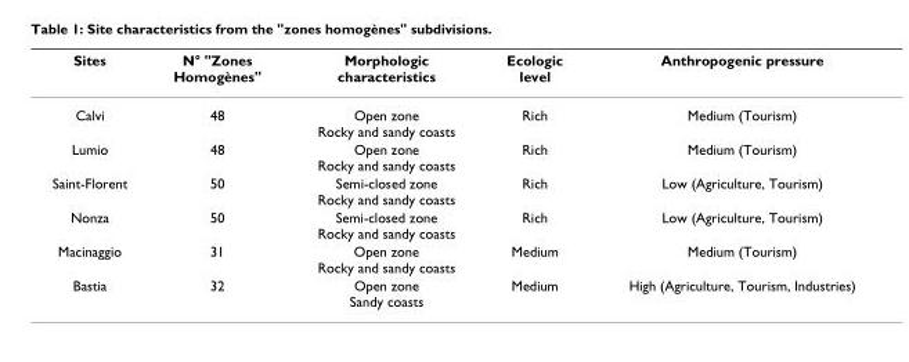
<table><thead><tr><td>Sites</td><td>N° &quot;Zones Homogènes&quot;</td><td>Morphologic characteristics</td><td>Ecologic level</td><td>Anthropogenic pressure</td></tr></thead><tbody><tr><td>Calvi</td><td>48</td><td>Open zone Rocky and sandy coasts</td><td>Rich</td><td>Medium (Tourism)</td></tr><tr><td>Lumio</td><td>48</td><td>Open zone Rocky and sandy coasts</td><td>Rich</td><td>Medium (Tourism)</td></tr><tr><td>Saint-Florent</td><td>50</td><td>Semi-closed zone Rocky and sandy coasts</td><td>Rich</td><td>Low (Agriculture, Tourism)</td></tr><tr><td>Nonza</td><td>50</td><td>Semi-closed zone Rocky and sandy coasts</td><td>Rich</td><td>Low (Agriculture, Tourism)</td></tr><tr><td>Macinaggio</td><td>31</td><td>Open zone Rocky and sandy coasts</td><td>Medium</td><td>Medium (Tourism)</td></tr><tr><td>Bastia</td><td>32</td><td>Open zone Sandy coasts</td><td>Medium</td><td>High (Agriculture, Tourism, Industries)</td></tr></tbody></table>